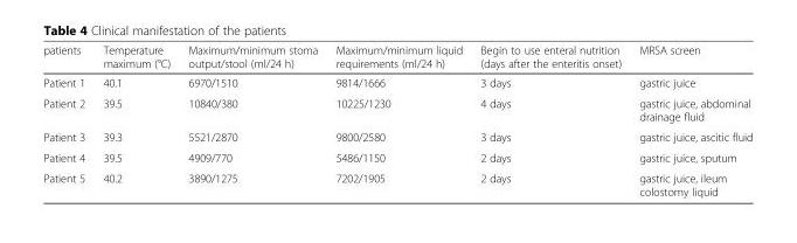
<table><thead><tr><td>patients</td><td>Temperature maximum (°C)</td><td>Maximum/minimum stoma output/stool (ml/24 h)</td><td>Maximum/minimum liquid requirements (ml/24 h)</td><td>Begin to use enteral nutrition (days after the enteritis onset)</td><td>MRSA screen</td></tr></thead><tbody><tr><td>Patient 1</td><td>40.1</td><td>6970/1510</td><td>9814/1666</td><td>3 days</td><td>gastric juice</td></tr><tr><td>Patient 2</td><td>39.5</td><td>10840/380</td><td>10225/1230</td><td>4 days</td><td>gastric juice, abdominal drainage fluid</td></tr><tr><td>Patient 3</td><td>39.3</td><td>5521/2870</td><td>9800/2580</td><td>3 days</td><td>gastric juice, ascitic fluid</td></tr><tr><td>Patient 4</td><td>39.5</td><td>4909/770</td><td>5486/1150</td><td>2 days</td><td>gastric juice, sputum</td></tr><tr><td>Patient 5</td><td>40.2</td><td>3890/1275</td><td>7202/1905</td><td>2 days</td><td>gastric juice, ileum colostomy liquid</td></tr></tbody></table>